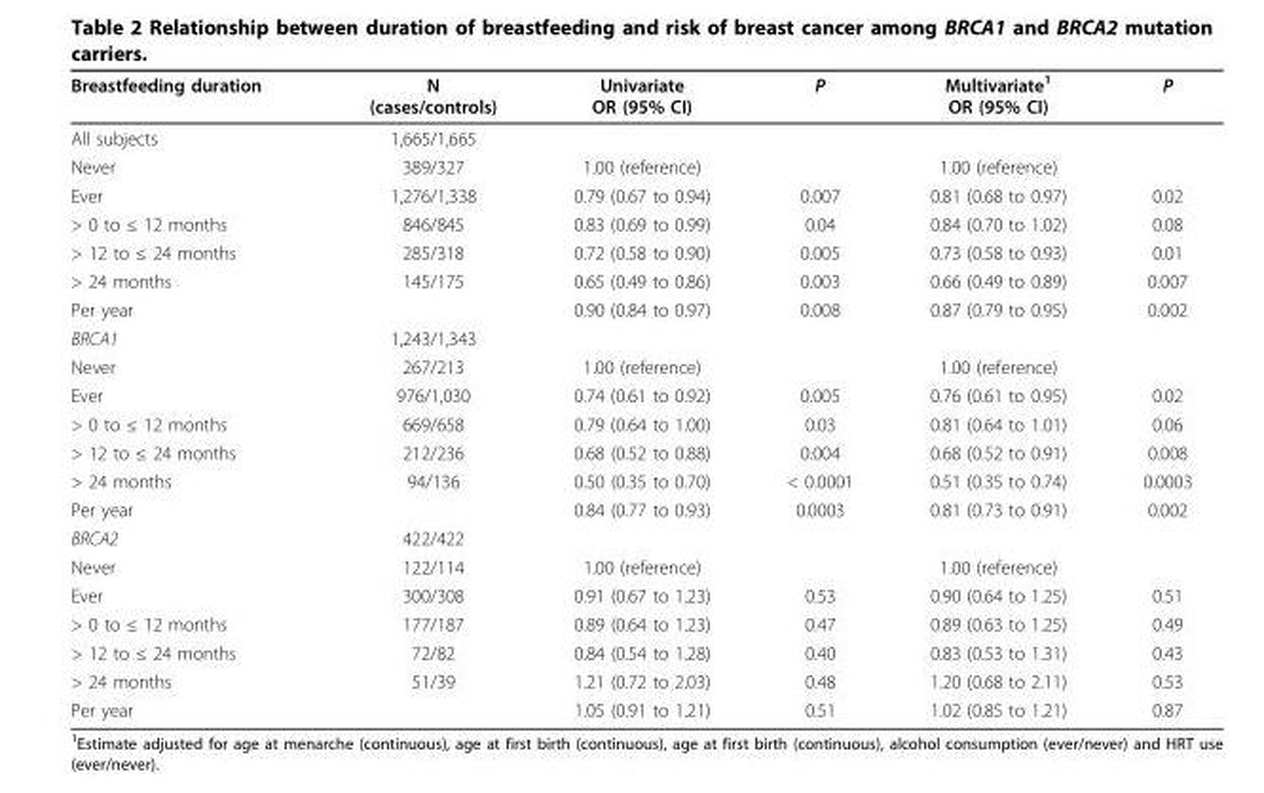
<table><thead><tr><td>Breastfeeding duration</td><td>N (cases/controls)</td><td>Univariate OR (95% CI)</td><td>P</td><td>Multivariate<sup>1</sup> OR (95% CI)</td><td>P</td></tr></thead><tbody><tr><td>All subjects</td><td>1,665/1,665</td><td></td><td></td><td></td><td></td></tr><tr><td>Never</td><td>389/327</td><td>1.00 (reference)</td><td></td><td>1.00 (reference)</td><td></td></tr><tr><td>Ever</td><td>1,276/1,338</td><td>0.79 (0.67 to 0.94)</td><td>0.007</td><td>0.81 (0.68 to 0.97)</td><td>0.02</td></tr><tr><td>&gt; 0 to ≤ 12 months</td><td>846/845</td><td>0.83 (0.69 to 0.99)</td><td>0.04</td><td>0.84 (0.70 to 1.02)</td><td>0.08</td></tr><tr><td>&gt; 12 to ≤ 24 months</td><td>285/318</td><td>0.72 (0.58 to 0.90)</td><td>0.005</td><td>0.73 (0.58 to 0.93)</td><td>0.01</td></tr><tr><td>&gt; 24 months</td><td>145/175</td><td>0.65 (0.49 to 0.86)</td><td>0.003</td><td>0.66 (0.49 to 0.89)</td><td>0.007</td></tr><tr><td>Per year</td><td></td><td>0.90 (0.84 to 0.97)</td><td>0.008</td><td>0.87 (0.79 to 0.95)</td><td>0.002</td></tr><tr><td>BRCA1</td><td>1,243/1,343</td><td></td><td></td><td></td><td></td></tr><tr><td>Never</td><td>267/213</td><td>1.00 (reference)</td><td></td><td>1.00 (reference)</td><td></td></tr><tr><td>Ever</td><td>976/1,030</td><td>0.74 (0.61 to 0.92)</td><td>0.005</td><td>0.76 (0.61 to 0.95)</td><td>0.02</td></tr><tr><td>&gt; 0 to ≤ 12 months</td><td>669/658</td><td>0.79 (0.64 to 1.00)</td><td>0.03</td><td>0.81 (0.64 to 1.01)</td><td>0.06</td></tr><tr><td>&gt; 12 to ≤ 24 months</td><td>212/236</td><td>0.68 (0.52 to 0.88)</td><td>0.004</td><td>0.68 (0.52 to 0.91)</td><td>0.008</td></tr><tr><td>&gt; 24 months</td><td>94/136</td><td>0.50 (0.35 to 0.70)</td><td>&lt; 0.0001</td><td>0.51 (0.35 to 0.74)</td><td>0.0003</td></tr><tr><td>Per year</td><td></td><td>0.84 (0.77 to 0.93)</td><td>0.0003</td><td>0.81 (0.73 to 0.91)</td><td>0.002</td></tr><tr><td>BRCA2</td><td>422/422</td><td></td><td></td><td></td><td></td></tr><tr><td>Never</td><td>122/114</td><td>1.00 (reference)</td><td></td><td>1.00 (reference)</td><td></td></tr><tr><td>Ever</td><td>300/308</td><td>0.91 (0.67 to 1.23)</td><td>0.53</td><td>0.90 (0.64 to 1.25)</td><td>0.51</td></tr><tr><td>&gt; 0 to ≤ 12 months</td><td>177/187</td><td>0.89 (0.64 to 1.23)</td><td>0.47</td><td>0.89 (0.63 to 1.25)</td><td>0.49</td></tr><tr><td>&gt; 12 to ≤ 24 months</td><td>72/82</td><td>0.84 (0.54 to 1.28)</td><td>0.40</td><td>0.83 (0.53 to 1.31)</td><td>0.43</td></tr><tr><td>&gt; 24 months</td><td>51/39</td><td>1.21 (0.72 to 2.03)</td><td>0.48</td><td>1.20 (0.68 to 2.11)</td><td>0.53</td></tr><tr><td>Per year</td><td></td><td>1.05 (0.91 to 1.21)</td><td>0.51</td><td>1.02 (0.85 to 1.21)</td><td>0.87</td></tr></tbody></table>